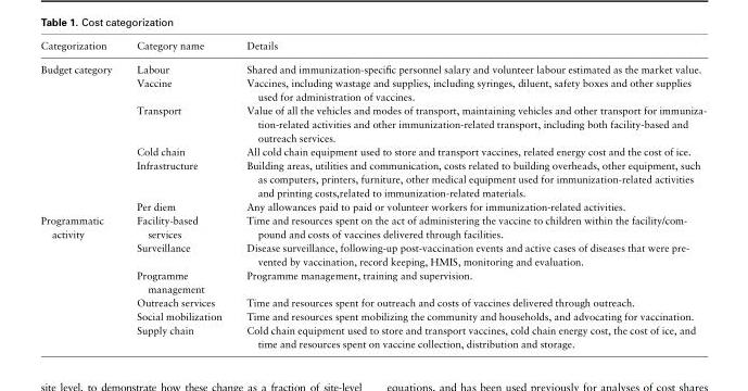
<table><thead><tr><td>Categorization</td><td>Category name</td><td>Details</td></tr></thead><tbody><tr><td rowspan="6">Budget category</td><td>Labour</td><td>Shared and immunization-specific personnel salary and volunteer labour estimated as the market value.</td></tr><tr><td>Vaccine</td><td>Vaccines, including wastage and supplies, including syringes, diluent, safety boxes and other supplies used for administration of vaccines.</td></tr><tr><td>Transport</td><td>Value of all the vehicles and modes of transport, maintaining vehicles and other transport for immuniza- tion-related activities and other immunization-related transport, including both facility-based and outreach services.</td></tr><tr><td>Cold chain</td><td>All cold chain equipment used to store and transport vaccines, related energy cost and the cost of ice.</td></tr><tr><td>Infrastructure</td><td>Building areas, utilities and communication, costs related to building overheads, other equipment, such as computers, printers, furniture, other medical equipment used for immunization-related activities and printing costs,related to immunization-related materials.</td></tr><tr><td>Per diem</td><td>Any allowances paid to paid or volunteer workers for immunization-related activities.</td></tr><tr><td rowspan="6">Programmatic activity</td><td>Facility-based services</td><td>Time and resources spent on the act of administering the vaccine to children within the facility/com- pound and costs of vaccines delivered through facilities.</td></tr><tr><td>Surveillance</td><td>Disease surveillance, following-up post-vaccination events and active cases of diseases that were pre- vented by vaccination, record keeping, HMIS, monitoring and evaluation.</td></tr><tr><td>Programme management</td><td>Programme management, training and supervision.</td></tr><tr><td>Outreach services</td><td>Time and resources spent for outreach and costs of vaccines delivered through outreach.</td></tr><tr><td>Social mobilization</td><td>Time and resources spent mobilizing the community and households, and advocating for vaccination.</td></tr><tr><td>Supply chain</td><td>Cold chain equipment used to store and transport vaccines, cold chain energy cost, the cost of ice, and time and resources spent on vaccine collection, distribution and storage.</td></tr></tbody></table>